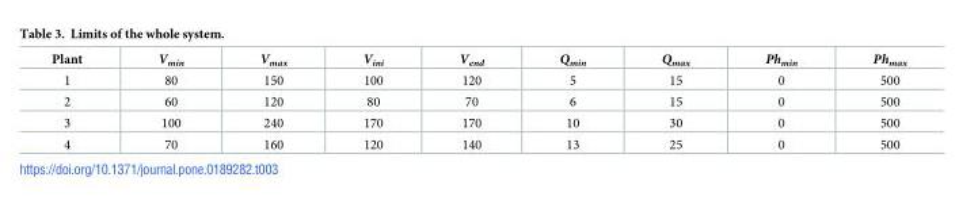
<table><thead><tr><td>Plant</td><td>V<sub>min</sub></td><td>V<sub>max</sub></td><td>V<sub>ini</sub></td><td>V<sub>end</sub></td><td>Q<sub>min</sub></td><td>Q<sub>max</sub></td><td>Ph<sub>min</sub></td><td>Ph<sub>max</sub></td></tr></thead><tbody><tr><td>1</td><td>80</td><td>150</td><td>100</td><td>120</td><td>5</td><td>15</td><td>0</td><td>500</td></tr><tr><td>2</td><td>60</td><td>120</td><td>80</td><td>70</td><td>6</td><td>15</td><td>0</td><td>500</td></tr><tr><td>3</td><td>100</td><td>240</td><td>170</td><td>170</td><td>10</td><td>30</td><td>0</td><td>500</td></tr><tr><td>4</td><td>70</td><td>160</td><td>120</td><td>140</td><td>13</td><td>25</td><td>0</td><td>500</td></tr></tbody></table>